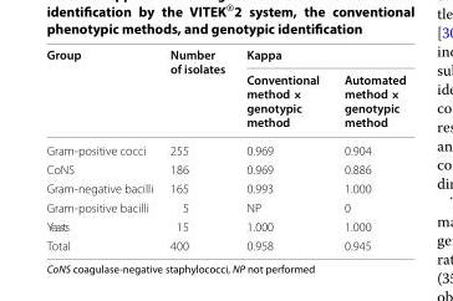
<table><thead><tr><td rowspan="2">Group</td><td rowspan="2">Number of isolates</td><td colspan="2">Kappa</td></tr><tr><td>Conventional method × genotypic method</td><td>Automated method × genotypic method</td></tr></thead><tbody><tr><td>Gram-positive cocci</td><td>255</td><td>0.969</td><td>0.904</td></tr><tr><td>CoNS</td><td>186</td><td>0.969</td><td>0.886</td></tr><tr><td>Gram-negative bacilli</td><td>165</td><td>0.993</td><td>1.000</td></tr><tr><td>Gram-positive bacilli</td><td>5</td><td>NP</td><td>0</td></tr><tr><td>Yeasts</td><td>15</td><td>1.000</td><td>1.000</td></tr><tr><td>Total</td><td>400</td><td>0.958</td><td>0.945</td></tr></tbody></table>